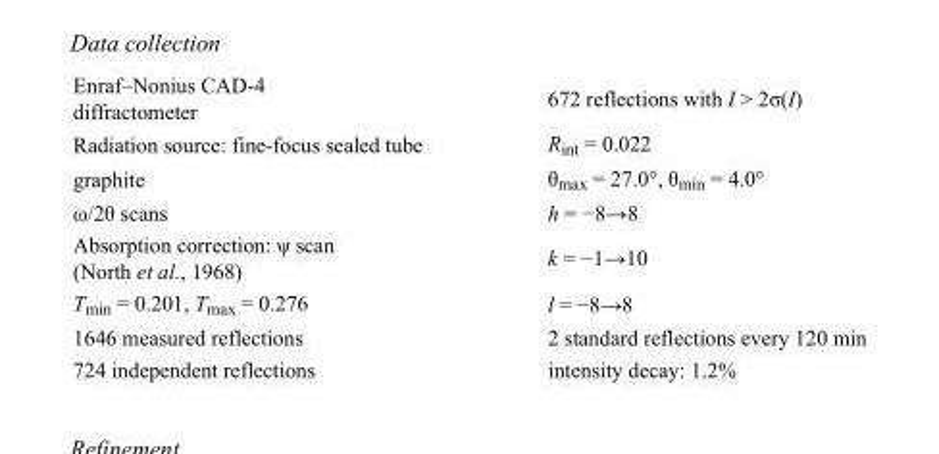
<table><tbody><tr><td>Enraf–Nonius CAD-4 diffractometer</td><td>672 reflections with I &gt; 2σ(I)</td></tr><tr><td>Radiation source: fine-focus sealed tube</td><td>R<sub>int</sub> = 0.022</td></tr><tr><td>graphite</td><td>θ<sub>max</sub> = 27.0°, θ<sub>min</sub> = 4.0°</td></tr><tr><td>ω/2θ scans</td><td>h = −8→8</td></tr><tr><td>Absorption correction: ψ scan (North et al., 1968)</td><td>k = −1→10</td></tr><tr><td>T<sub>min</sub> = 0.201, T<sub>max</sub> = 0.276</td><td>l = −8→8</td></tr><tr><td>1646 measured reflections</td><td>2 standard reflections every 120 min</td></tr><tr><td>724 independent reflections</td><td>intensity decay: 1.2%</td></tr></tbody></table>